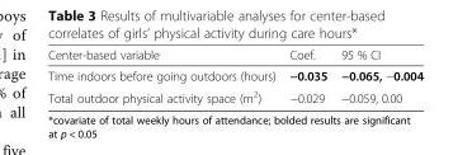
<table><thead><tr><td>Center-based variable</td><td>Coef.</td><td>95 % CI</td></tr></thead><tbody><tr><td>Time indoors before going outdoors (hours)</td><td>−0.035</td><td>−0.065, −0.004</td></tr><tr><td>Total outdoor physical activity space (m<sup>2</sup>)</td><td>−0.029</td><td>−0.059, 0.00</td></tr></tbody></table>